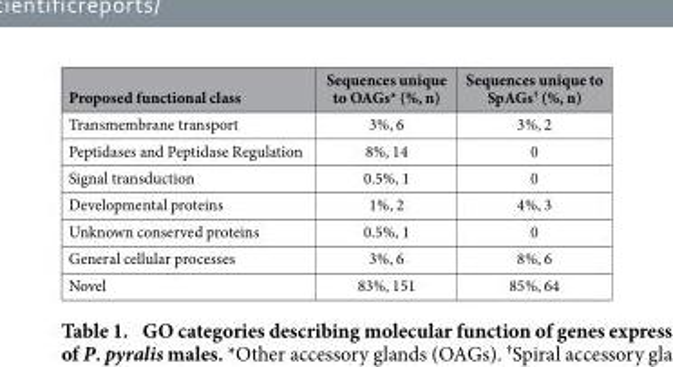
<table><thead><tr><td>Proposed functional class</td><td>Sequences unique to OAGs* (%, n)</td><td>Sequences unique to SpAGs<sup>†</sup> (%, n)</td></tr></thead><tbody><tr><td>Transmembrane transport</td><td>3%, 6</td><td>3%, 2</td></tr><tr><td>Peptidases and Peptidase Regulation</td><td>8%, 14</td><td>0</td></tr><tr><td>Signal transduction</td><td>0.5%, 1</td><td>0</td></tr><tr><td>Developmental proteins</td><td>1%, 2</td><td>4%, 3</td></tr><tr><td>Unknown conserved proteins</td><td>0.5%, 1</td><td>0</td></tr><tr><td>General cellular processes</td><td>3%, 6</td><td>8%, 6</td></tr><tr><td>Novel</td><td>83%, 151</td><td>85%, 64</td></tr></tbody></table>